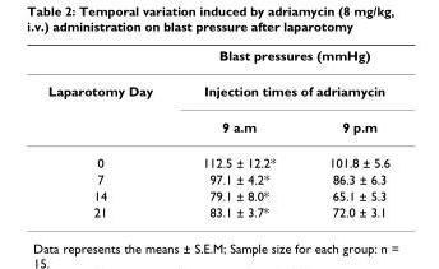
<table><thead><tr><td rowspan="3">Laparotomy Day</td><td rowspan="2" colspan="2">Blast pressures (mmHg) Injection times of adriamycin</td></tr><tr></tr><tr><td>9 a.m</td><td>9 p.m</td></tr></thead><tbody><tr><td>0</td><td>112.5 ± 12.2*</td><td>101.8 ± 5.6</td></tr><tr><td>7</td><td>97.1 ± 4.2*</td><td>86.3 ± 6.3</td></tr><tr><td>14</td><td>79.1 ± 8.0*</td><td>65.1 ± 5.3</td></tr><tr><td>21</td><td>83.1 ± 3.7*</td><td>72.0 ± 3.1</td></tr></tbody></table>